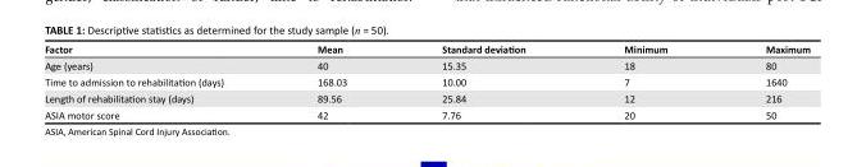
<table><thead><tr><td>Factor</td><td>Mean</td><td>Standard deviation</td><td>Minimum</td><td>Maximum</td></tr></thead><tbody><tr><td>Age (years)</td><td>40</td><td>15.35</td><td>18</td><td>80</td></tr><tr><td>Time to admission to rehabilitation (days)</td><td>168.03</td><td>10.00</td><td>7</td><td>1640</td></tr><tr><td>Length of rehabilitation stay (days)</td><td>89.56</td><td>25.84</td><td>12</td><td>216</td></tr><tr><td>ASIA motor score</td><td>42</td><td>7.76</td><td>20</td><td>50</td></tr></tbody></table>